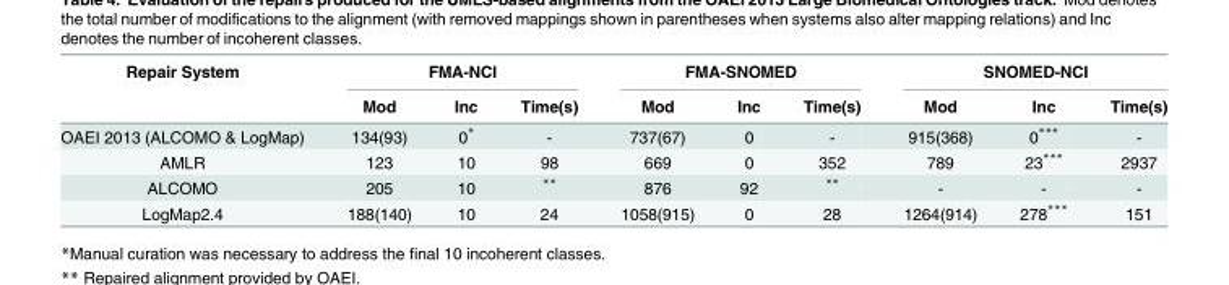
<table><thead><tr><td rowspan="2">Repair System</td><td colspan="3">FMA-NCI</td><td colspan="3">FMA-SNOMED</td><td colspan="3">SNOMED-NCI</td></tr><tr><td>Mod</td><td>Inc</td><td>Time(s)</td><td>Mod</td><td>Inc</td><td>Time(s)</td><td>Mod</td><td>Inc</td><td>Time(s)</td></tr></thead><tbody><tr><td>OAEI 2013 (ALCOMO &amp; LogMap)</td><td>134(93)</td><td>0*</td><td>-</td><td>737(67)</td><td>0</td><td>-</td><td>915(368)</td><td>0***</td><td>-</td></tr><tr><td>AMLR</td><td>123</td><td>10</td><td>98</td><td>669</td><td>0</td><td>352</td><td>789</td><td>23***</td><td>2937</td></tr><tr><td>ALCOMO</td><td>205</td><td>10</td><td>**</td><td>876</td><td>92</td><td>**</td><td>-</td><td>-</td><td>-</td></tr><tr><td>LogMap2.4</td><td>188(140)</td><td>10</td><td>24</td><td>1058(915)</td><td>0</td><td>28</td><td>1264(914)</td><td>278***</td><td>151</td></tr></tbody></table>